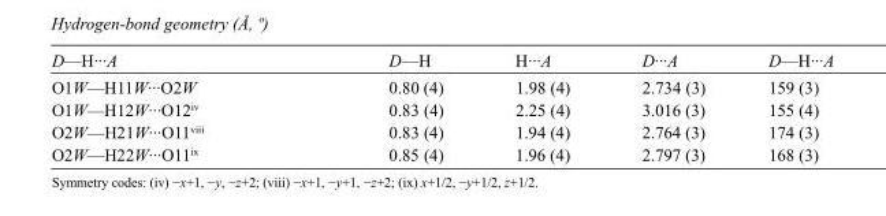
<table><tbody><tr><td>D—H···A</td><td>D—H</td><td>H···A</td><td>D···A</td><td>D—H···A</td></tr><tr><td>O1W—H11W···O2W</td><td>0.80 (4)</td><td>1.98 (4)</td><td>2.734 (3)</td><td>159 (3)</td></tr><tr><td>O1W—H12W···O12<sup>iv</sup></td><td>0.83 (4)</td><td>2.25 (4)</td><td>3.016 (3)</td><td>155 (4)</td></tr><tr><td>O2W—H21W···O11<sup>viii</sup></td><td>0.83 (4)</td><td>1.94 (4)</td><td>2.764 (3)</td><td>174 (3)</td></tr><tr><td>O2W—H22W···O11<sup>ix</sup></td><td>0.85 (4)</td><td>1.96 (4)</td><td>2.797 (3)</td><td>168 (3)</td></tr></tbody></table>